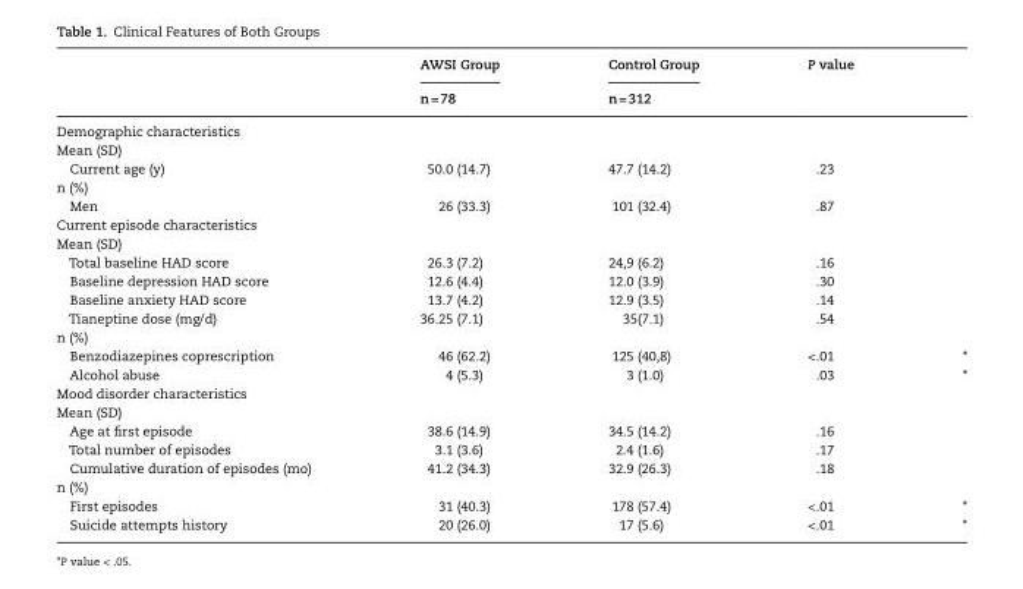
<table><thead><tr><td rowspan="2"></td><td rowspan="2">AWSI Group n = 78</td><td rowspan="2">Control Group n = 312</td><td rowspan="2">P value</td><td rowspan="2"></td></tr><tr></tr></thead><tbody><tr><td colspan="5">Demographic characteristics</td></tr><tr><td colspan="5">Mean (SD)</td></tr><tr><td>Current age (y)</td><td>50.0 (14.7)</td><td>47.7 (14.2)</td><td>.23</td><td></td></tr><tr><td colspan="5">n (%)</td></tr><tr><td>Men</td><td>26 (33.3)</td><td>101 (32.4)</td><td>.87</td><td></td></tr><tr><td colspan="5">Current episode characteristics</td></tr><tr><td colspan="5">Mean (SD)</td></tr><tr><td>Total baseline HAD score</td><td>26.3 (7.2)</td><td>24,9 (6.2)</td><td>.16</td><td></td></tr><tr><td>Baseline depression HAD score</td><td>12.6 (4.4)</td><td>12.0 (3.9)</td><td>.30</td><td></td></tr><tr><td>Baseline anxiety HAD score</td><td>13.7 (4.2)</td><td>12.9 (3.5)</td><td>.14</td><td></td></tr><tr><td>Tianeptine dose (mg/d)</td><td>36.25 (7.1)</td><td>35(7.1)</td><td>.54</td><td></td></tr><tr><td colspan="5">n (%)</td></tr><tr><td>Benzodiazepines coprescription</td><td>46 (62.2)</td><td>125 (40,8)</td><td>&lt;.01</td><td>*</td></tr><tr><td>Alcohol abuse</td><td>4 (5.3)</td><td>3 (1.0)</td><td>.03</td><td>*</td></tr><tr><td colspan="5">Mood disorder characteristics</td></tr><tr><td colspan="5">Mean (SD)</td></tr><tr><td>Age at first episode</td><td>38.6 (14.9)</td><td>34.5 (14.2)</td><td>.16</td><td></td></tr><tr><td>Total number of episodes</td><td>3.1 (3.6)</td><td>2.4 (1.6)</td><td>.17</td><td></td></tr><tr><td>Cumulative duration of episodes (mo)</td><td>41.2 (34.3)</td><td>32.9 (26.3)</td><td>.18</td><td></td></tr><tr><td colspan="5">n (%)</td></tr><tr><td>First episodes</td><td>31 (40.3)</td><td>178 (57.4)</td><td>&lt;.01</td><td>*</td></tr><tr><td>Suicide attempts history</td><td>20 (26.0)</td><td>17 (5.6)</td><td>&lt;.01</td><td>*</td></tr></tbody></table>